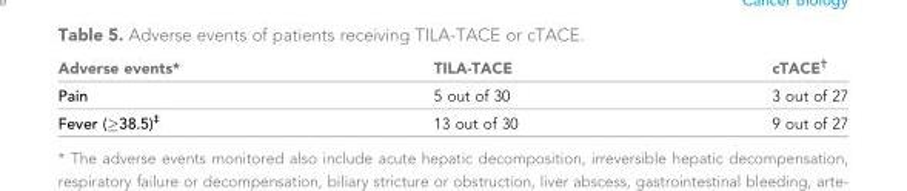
<table><thead><tr><td>Adverse events*</td><td>TILA-TACE</td><td>cTACE<sup>†</sup></td></tr></thead><tbody><tr><td>Pain</td><td>5 out of 30</td><td>3 out of 27</td></tr><tr><td>Fever (≥38.5)<sup>‡</sup></td><td>13 out of 30</td><td>9 out of 27</td></tr></tbody></table>